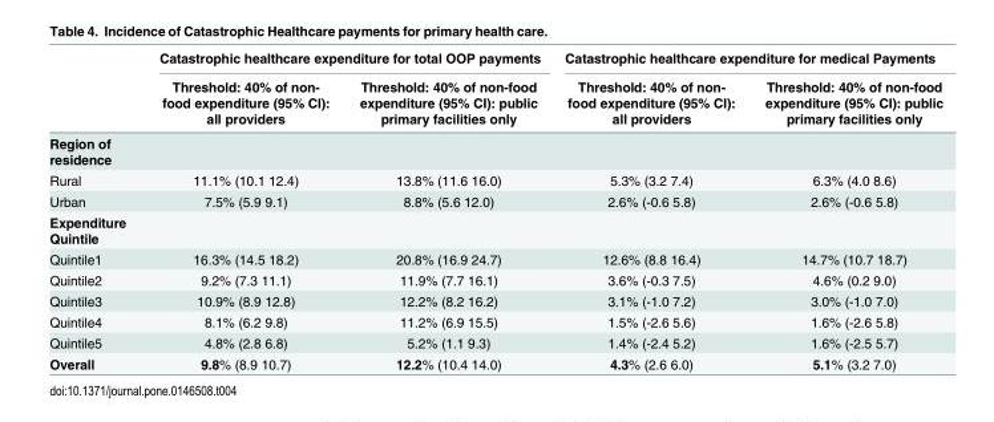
<table><thead><tr><td rowspan="2"></td><td colspan="2">Catastrophic healthcare expenditure for total OOP payments</td><td colspan="2">Catastrophic healthcare expenditure for medical Payments</td></tr><tr><td>Threshold: 40% of non- food expenditure (95% CI): all providers</td><td>Threshold: 40% of non-food expenditure (95% CI): public primary facilities only</td><td>Threshold: 40% of non- food expenditure (95% CI): all providers</td><td>Threshold: 40% of non-food expenditure (95% CI): public primary facilities only</td></tr></thead><tbody><tr><td colspan="5">Region of residence</td></tr><tr><td>Rural</td><td>11.1% (10.1 12.4)</td><td>13.8% (11.6 16.0)</td><td>5.3% (3.2 7.4)</td><td>6.3% (4.0 8.6)</td></tr><tr><td>Urban</td><td>7.5% (5.9 9.1)</td><td>8.8% (5.6 12.0)</td><td>2.6% (-0.6 5.8)</td><td>2.6% (-0.6 5.8)</td></tr><tr><td colspan="5">Expenditure Quintile</td></tr><tr><td>Quintile1</td><td>16.3% (14.5 18.2)</td><td>20.8% (16.9 24.7)</td><td>12.6% (8.8 16.4)</td><td>14.7% (10.7 18.7)</td></tr><tr><td>Quintile2</td><td>9.2% (7.3 11.1)</td><td>11.9% (7.7 16.1)</td><td>3.6% (-0.3 7.5)</td><td>4.6% (0.2 9.0)</td></tr><tr><td>Quintile3</td><td>10.9% (8.9 12.8)</td><td>12.2% (8.2 16.2)</td><td>3.1% (-1.0 7.2)</td><td>3.0% (-1.0 7.0)</td></tr><tr><td>Quintile4</td><td>8.1% (6.2 9.8)</td><td>11.2% (6.9 15.5)</td><td>1.5% (-2.6 5.6)</td><td>1.6% (-2.6 5.8)</td></tr><tr><td>Quintile5</td><td>4.8% (2.8 6.8)</td><td>5.2% (1.1 9.3)</td><td>1.4% (-2.4 5.2)</td><td>1.6% (-2.5 5.7)</td></tr><tr><td>Overall</td><td>9.8% (8.9 10.7)</td><td>12.2% (10.4 14.0)</td><td>4.3% (2.6 6.0)</td><td>5.1% (3.2 7.0)</td></tr></tbody></table>